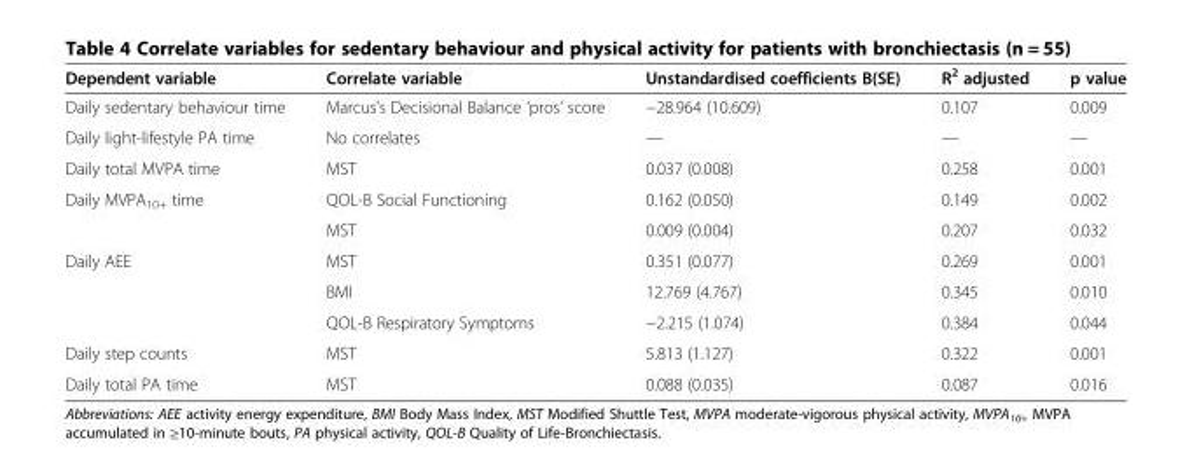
<table><thead><tr><td>Dependent variable</td><td>Correlate variable</td><td>Unstandardised coefficients B(SE)</td><td>R<sup>2</sup> adjusted</td><td>p value</td></tr></thead><tbody><tr><td>Daily sedentary behaviour time</td><td>Marcus’s Decisional Balance ‘pros’ score</td><td>−28.964 (10.609)</td><td>0.107</td><td>0.009</td></tr><tr><td>Daily light-lifestyle PA time</td><td>No correlates</td><td>—</td><td>—</td><td>—</td></tr><tr><td>Daily total MVPA time</td><td>MST</td><td>0.037 (0.008)</td><td>0.258</td><td>0.001</td></tr><tr><td rowspan="2">Daily MVPA<sub>10+</sub> time</td><td>QOL-B Social Functioning</td><td>0.162 (0.050)</td><td>0.149</td><td>0.002</td></tr><tr><td>MST</td><td>0.009 (0.004)</td><td>0.207</td><td>0.032</td></tr><tr><td rowspan="3">Daily AEE</td><td>MST</td><td>0.351 (0.077)</td><td>0.269</td><td>0.001</td></tr><tr><td>BMI</td><td>12.769 (4.767)</td><td>0.345</td><td>0.010</td></tr><tr><td>QOL-B Respiratory Symptoms</td><td>−2.215 (1.074)</td><td>0.384</td><td>0.044</td></tr><tr><td>Daily step counts</td><td>MST</td><td>5.813 (1.127)</td><td>0.322</td><td>0.001</td></tr><tr><td>Daily total PA time</td><td>MST</td><td>0.088 (0.035)</td><td>0.087</td><td>0.016</td></tr></tbody></table>